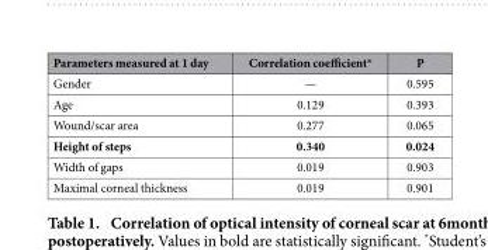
<table><thead><tr><td>Parameters measured at 1 day</td><td>Correlation coefficient*</td><td>P</td></tr></thead><tbody><tr><td>Gender</td><td>—</td><td>0.595</td></tr><tr><td>Age</td><td>0.129</td><td>0.393</td></tr><tr><td>Wound/scar area</td><td>0.277</td><td>0.065</td></tr><tr><td>Height of steps</td><td>0.340</td><td>0.024</td></tr><tr><td>Width of gaps</td><td>0.019</td><td>0.903</td></tr><tr><td>Maximal corneal thickness</td><td>0.019</td><td>0.901</td></tr></tbody></table>